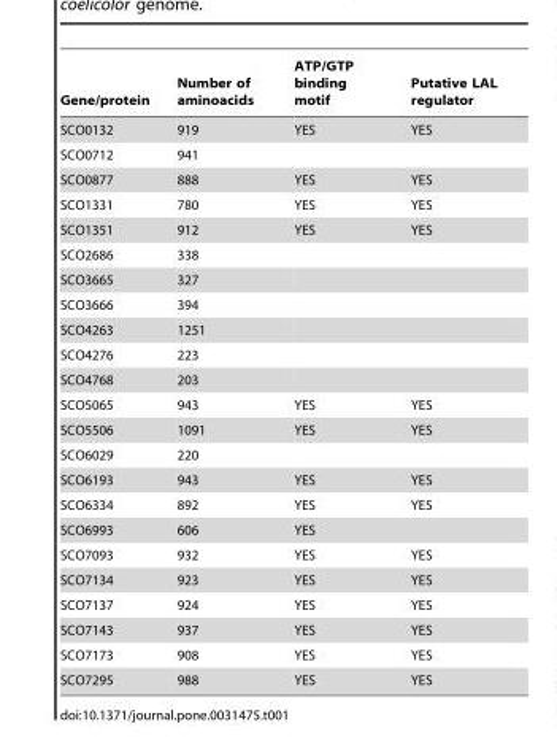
<table><thead><tr><td>Gene/protein</td><td>Number of aminoacids</td><td>ATP/GTP binding motif</td><td>Putative LAL regulator</td></tr></thead><tbody><tr><td>SCO0132</td><td>919</td><td>YES</td><td>YES</td></tr><tr><td>SCO0712</td><td>941</td><td></td><td></td></tr><tr><td>SCO0877</td><td>888</td><td>YES</td><td>YES</td></tr><tr><td>SCO1331</td><td>780</td><td>YES</td><td>YES</td></tr><tr><td>SCO1351</td><td>912</td><td>YES</td><td>YES</td></tr><tr><td>SCO2686</td><td>338</td><td></td><td></td></tr><tr><td>SCO3665</td><td>327</td><td></td><td></td></tr><tr><td>SCO3666</td><td>394</td><td></td><td></td></tr><tr><td>SCO4263</td><td>1251</td><td></td><td></td></tr><tr><td>SCO4276</td><td>223</td><td></td><td></td></tr><tr><td>SCO4768</td><td>203</td><td></td><td></td></tr><tr><td>SCO5065</td><td>943</td><td>YES</td><td>YES</td></tr><tr><td>SCO5506</td><td>1091</td><td>YES</td><td>YES</td></tr><tr><td>SCO6029</td><td>220</td><td></td><td></td></tr><tr><td>SCO6193</td><td>943</td><td>YES</td><td>YES</td></tr><tr><td>SCO6334</td><td>892</td><td>YES</td><td>YES</td></tr><tr><td>SCO6993</td><td>606</td><td>YES</td><td></td></tr><tr><td>SCO7093</td><td>932</td><td>YES</td><td>YES</td></tr><tr><td>SCO7134</td><td>923</td><td>YES</td><td>YES</td></tr><tr><td>SCO7137</td><td>924</td><td>YES</td><td>YES</td></tr><tr><td>SCO7143</td><td>937</td><td>YES</td><td>YES</td></tr><tr><td>SCO7173</td><td>908</td><td>YES</td><td>YES</td></tr><tr><td>SCO7295</td><td>988</td><td>YES</td><td>YES</td></tr></tbody></table>